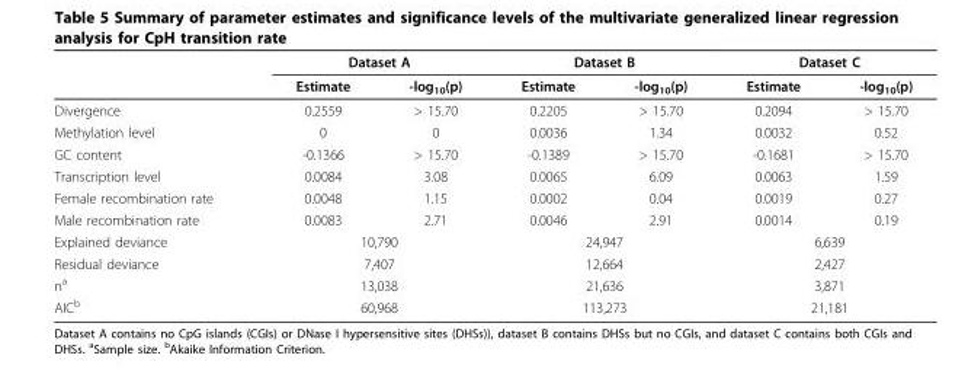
<table><thead><tr><td rowspan="2"></td><td colspan="2">Dataset A</td><td colspan="2">Dataset B</td><td colspan="2">Dataset C</td></tr><tr><td>Estimate</td><td>-log<sub>10</sub>(p)</td><td>Estimate</td><td>-log<sub>10</sub>(p)</td><td>Estimate</td><td>-log<sub>10</sub>(p)</td></tr></thead><tbody><tr><td>Divergence</td><td>0.2559</td><td>&gt; 15.70</td><td>0.2205</td><td>&gt; 15.70</td><td>0.2094</td><td>&gt; 15.70</td></tr><tr><td>Methylation level</td><td>0</td><td>0</td><td>0.0036</td><td>1.34</td><td>0.0032</td><td>0.52</td></tr><tr><td>GC content</td><td>-0.1366</td><td>&gt; 15.70</td><td>-0.1389</td><td>&gt; 15.70</td><td>-0.1681</td><td>&gt; 15.70</td></tr><tr><td>Transcription level</td><td>0.0084</td><td>3.08</td><td>0.0065</td><td>6.09</td><td>0.0063</td><td>1.59</td></tr><tr><td>Female recombination rate</td><td>0.0048</td><td>1.15</td><td>0.0002</td><td>0.04</td><td>0.0019</td><td>0.27</td></tr><tr><td>Male recombination rate</td><td>0.0083</td><td>2.71</td><td>0.0046</td><td>2.91</td><td>0.0014</td><td>0.19</td></tr><tr><td>Explained deviance</td><td colspan="2">10,790</td><td colspan="2">24,947</td><td colspan="2">6,639</td></tr><tr><td>Residual deviance</td><td colspan="2">7,407</td><td colspan="2">12,664</td><td colspan="2">2,427</td></tr><tr><td>n<sup>a</sup></td><td colspan="2">13,038</td><td colspan="2">21,636</td><td colspan="2">3,871</td></tr><tr><td>AIC<sup>b</sup></td><td colspan="2">60,968</td><td colspan="2">113,273</td><td colspan="2">21,181</td></tr></tbody></table>